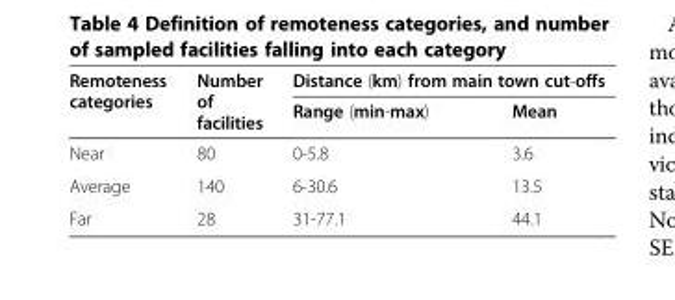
<table><thead><tr><td rowspan="2">Remoteness categories</td><td rowspan="2">Number of facilities</td><td colspan="2">Distance (km) from main town cut-offs</td></tr><tr><td>Range (min-max)</td><td>Mean</td></tr></thead><tbody><tr><td>Near</td><td>80</td><td>0-5.8</td><td>3.6</td></tr><tr><td>Average</td><td>140</td><td>6-30.6</td><td>13.5</td></tr><tr><td>Far</td><td>28</td><td>31-77.1</td><td>44.1</td></tr></tbody></table>